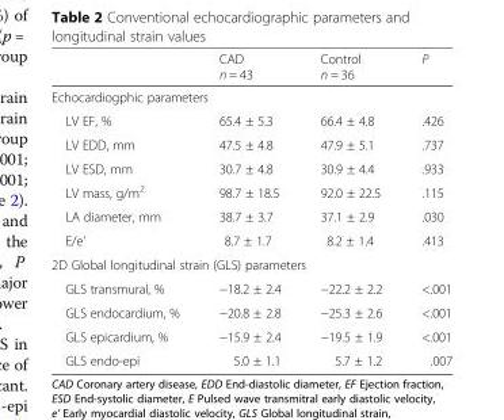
<table><thead><tr><td></td><td>CAD n = 43</td><td>Control n = 36</td><td>P</td></tr></thead><tbody><tr><td colspan="4">Echocardiogphic parameters</td></tr><tr><td>LV EF, %</td><td>65.4 ± 5.3</td><td>66.4 ± 4.8</td><td>.426</td></tr><tr><td>LV EDD, mm</td><td>47.5 ± 4.8</td><td>47.9 ± 5.1</td><td>.737</td></tr><tr><td>LV ESD, mm</td><td>30.7 ± 4.8</td><td>30.9 ± 4.4</td><td>.933</td></tr><tr><td>LV mass, g/m<sup>2</sup></td><td>98.7 ± 18.5</td><td>92.0 ± 22.5</td><td>.115</td></tr><tr><td>LA diameter, mm</td><td>38.7 ± 3.7</td><td>37.1 ± 2.9</td><td>.030</td></tr><tr><td>E/e’</td><td>8.7 ± 1.7</td><td>8.2 ± 1.4</td><td>.413</td></tr><tr><td colspan="4">2D Global longitudinal strain (GLS) parameters</td></tr><tr><td>GLS transmural, %</td><td>−18.2 ± 2.4</td><td>−22.2 ± 2.2</td><td>&lt;.001</td></tr><tr><td>GLS endocardium, %</td><td>−20.8 ± 2.8</td><td>−25.3 ± 2.6</td><td>&lt;.001</td></tr><tr><td>GLS epicardium, %</td><td>−15.9 ± 2.4</td><td>−19.5 ± 1.9</td><td>&lt;.001</td></tr><tr><td>GLS endo-epi</td><td>5.0 ± 1.1</td><td>5.7 ± 1.2</td><td>.007</td></tr></tbody></table>